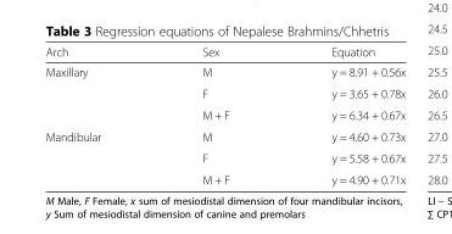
<table><thead><tr><td>Arch</td><td>Sex</td><td>Equation</td></tr></thead><tbody><tr><td rowspan="3">Maxillary</td><td>M</td><td>y = 8.91 + 0.56x</td></tr><tr><td>F</td><td>y = 3.65 + 0.78x</td></tr><tr><td>M + F</td><td>y = 6.34 + 0.67x</td></tr><tr><td rowspan="3">Mandibular</td><td>M</td><td>y = 4.60 + 0.73x</td></tr><tr><td>F</td><td>y = 5.58 + 0.67x</td></tr><tr><td>M + F</td><td>y = 4.90 + 0.71x</td></tr></tbody></table>